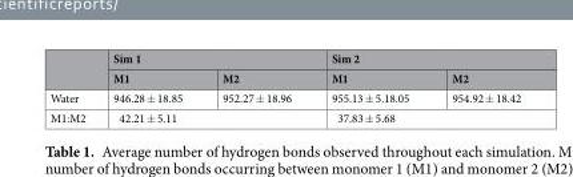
<table><thead><tr><td rowspan="2"></td><td colspan="2">Sim 1</td><td colspan="2">Sim 2</td></tr><tr><td>M1</td><td>M2</td><td>M1</td><td>M2</td></tr></thead><tbody><tr><td>Water</td><td>946.28 ± 18.85</td><td>952.27 ± 18.96</td><td>955.13 ± 5.18.05</td><td>954.92 ± 18.42</td></tr><tr><td>M1:M2</td><td colspan="2">42.21 ± 5.11</td><td colspan="2">37.83 ± 5.68</td></tr></tbody></table>